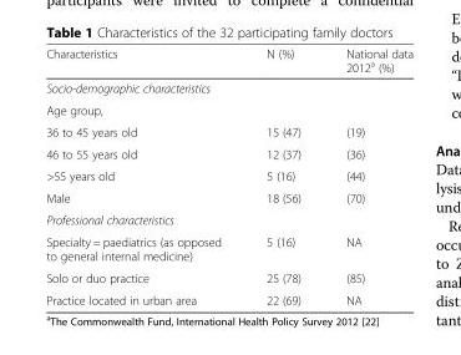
<table><thead><tr><td>Characteristics</td><td>N (%)</td><td>National data 2012<sup>a</sup> (%)</td></tr></thead><tbody><tr><td colspan="3">Socio-demographic characteristics</td></tr><tr><td colspan="3">Age group,</td></tr><tr><td>36 to 45 years old</td><td>15 (47)</td><td>(19)</td></tr><tr><td>46 to 55 years old</td><td>12 (37)</td><td>(36)</td></tr><tr><td>&gt;55 years old</td><td>5 (16)</td><td>(44)</td></tr><tr><td>Male</td><td>18 (56)</td><td>(70)</td></tr><tr><td colspan="3">Professional characteristics</td></tr><tr><td>Specialty = paediatrics (as opposed to general internal medicine)</td><td>5 (16)</td><td>NA</td></tr><tr><td>Solo or duo practice</td><td>25 (78)</td><td>(85)</td></tr><tr><td>Practice located in urban area</td><td>22 (69)</td><td>NA</td></tr></tbody></table>